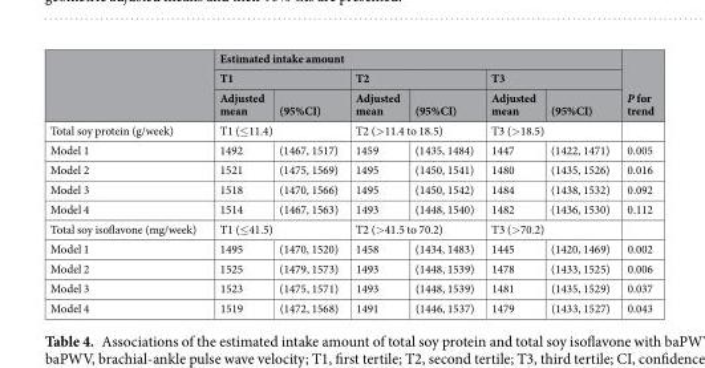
<table><thead><tr><td rowspan="3"></td><td colspan="6">Estimated intake amount</td><td rowspan="3">P for trend</td></tr><tr><td colspan="2">T1</td><td colspan="2">T2</td><td colspan="2">T3</td></tr><tr><td>Adjusted mean</td><td>(95%CI)</td><td>Adjusted mean</td><td>(95%CI)</td><td>Adjusted mean</td><td>(95%CI)</td></tr></thead><tbody><tr><td>Total soy protein (g/week)</td><td colspan="2">T1 (≤11.4)</td><td colspan="2">T2 (&gt;11.4 to 18.5)</td><td colspan="2">T3 (&gt;18.5)</td><td></td></tr><tr><td>Model 1</td><td>1492</td><td>(1467, 1517)</td><td>1459</td><td>(1435, 1484)</td><td>1447</td><td>(1422, 1471)</td><td>0.005</td></tr><tr><td>Model 2</td><td>1521</td><td>(1475, 1569)</td><td>1495</td><td>(1450, 1541)</td><td>1480</td><td>(1435, 1526)</td><td>0.016</td></tr><tr><td>Model 3</td><td>1518</td><td>(1470, 1566)</td><td>1495</td><td>(1450, 1542)</td><td>1484</td><td>(1438, 1532)</td><td>0.092</td></tr><tr><td>Model 4</td><td>1514</td><td>(1467, 1563)</td><td>1493</td><td>(1448, 1540)</td><td>1482</td><td>(1436, 1530)</td><td>0.112</td></tr><tr><td>Total soy isoflavone (mg/week)</td><td colspan="2">T1 (≤41.5)</td><td colspan="2">T2 (&gt;41.5 to 70.2)</td><td colspan="2">T3 (&gt;70.2)</td><td></td></tr><tr><td>Model 1</td><td>1495</td><td>(1470, 1520)</td><td>1458</td><td>(1434, 1483)</td><td>1445</td><td>(1420, 1469)</td><td>0.002</td></tr><tr><td>Model 2</td><td>1525</td><td>(1479, 1573)</td><td>1493</td><td>(1448, 1539)</td><td>1478</td><td>(1433, 1525)</td><td>0.006</td></tr><tr><td>Model 3</td><td>1523</td><td>(1475, 1571)</td><td>1493</td><td>(1448, 1539)</td><td>1481</td><td>(1435, 1529)</td><td>0.037</td></tr><tr><td>Model 4</td><td>1519</td><td>(1472, 1568)</td><td>1491</td><td>(1446, 1537)</td><td>1479</td><td>(1433, 1527)</td><td>0.043</td></tr></tbody></table>